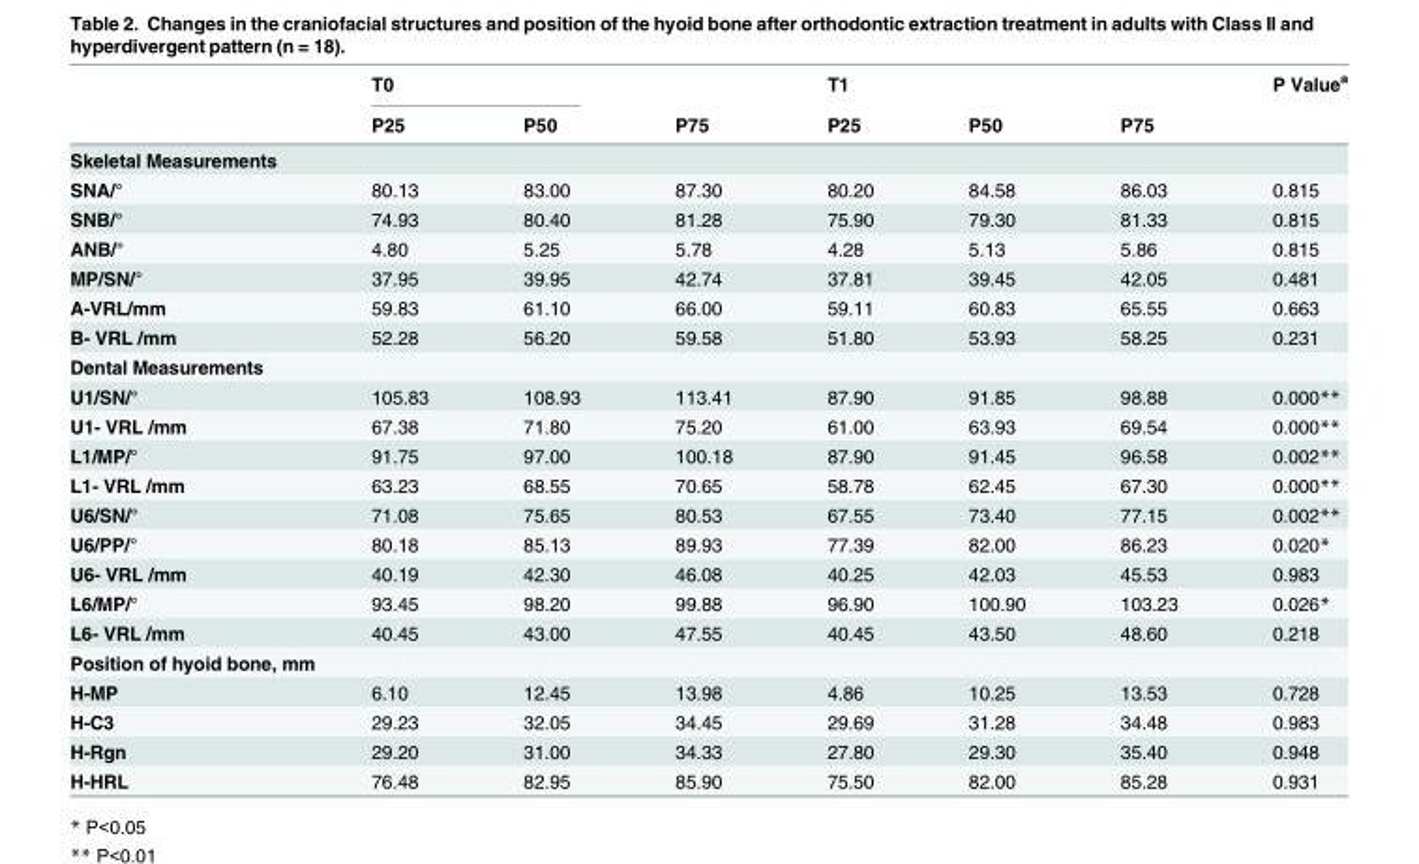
<table><thead><tr><td rowspan="2"></td><td colspan="2">T0</td><td rowspan="2">P75</td><td rowspan="2">T1 P25</td><td rowspan="2">P50</td><td rowspan="2">P75</td><td rowspan="2">P Value<sup>a</sup></td></tr><tr><td>P25</td><td>P50</td></tr></thead><tbody><tr><td colspan="8">Skeletal Measurements</td></tr><tr><td>SNA/°</td><td>80.13</td><td>83.00</td><td>87.30</td><td>80.20</td><td>84.58</td><td>86.03</td><td>0.815</td></tr><tr><td>SNB/°</td><td>74.93</td><td>80.40</td><td>81.28</td><td>75.90</td><td>79.30</td><td>81.33</td><td>0.815</td></tr><tr><td>ANB/°</td><td>4.80</td><td>5.25</td><td>5.78</td><td>4.28</td><td>5.13</td><td>5.86</td><td>0.815</td></tr><tr><td>MP/SN/°</td><td>37.95</td><td>39.95</td><td>42.74</td><td>37.81</td><td>39.45</td><td>42.05</td><td>0.481</td></tr><tr><td>A-VRL/mm</td><td>59.83</td><td>61.10</td><td>66.00</td><td>59.11</td><td>60.83</td><td>65.55</td><td>0.663</td></tr><tr><td>B- VRL /mm</td><td>52.28</td><td>56.20</td><td>59.58</td><td>51.80</td><td>53.93</td><td>58.25</td><td>0.231</td></tr><tr><td colspan="8">Dental Measurements</td></tr><tr><td>U1/SN/°</td><td>105.83</td><td>108.93</td><td>113.41</td><td>87.90</td><td>91.85</td><td>98.88</td><td>0.000**</td></tr><tr><td>U1- VRL /mm</td><td>67.38</td><td>71.80</td><td>75.20</td><td>61.00</td><td>63.93</td><td>69.54</td><td>0.000**</td></tr><tr><td>L1/MP/°</td><td>91.75</td><td>97.00</td><td>100.18</td><td>87.90</td><td>91.45</td><td>96.58</td><td>0.002**</td></tr><tr><td>L1- VRL /mm</td><td>63.23</td><td>68.55</td><td>70.65</td><td>58.78</td><td>62.45</td><td>67.30</td><td>0.000**</td></tr><tr><td>U6/SN/°</td><td>71.08</td><td>75.65</td><td>80.53</td><td>67.55</td><td>73.40</td><td>77.15</td><td>0.002**</td></tr><tr><td>U6/PP/°</td><td>80.18</td><td>85.13</td><td>89.93</td><td>77.39</td><td>82.00</td><td>86.23</td><td>0.020*</td></tr><tr><td>U6- VRL /mm</td><td>40.19</td><td>42.30</td><td>46.08</td><td>40.25</td><td>42.03</td><td>45.53</td><td>0.983</td></tr><tr><td>L6/MP/°</td><td>93.45</td><td>98.20</td><td>99.88</td><td>96.90</td><td>100.90</td><td>103.23</td><td>0.026*</td></tr><tr><td>L6- VRL /mm</td><td>40.45</td><td>43.00</td><td>47.55</td><td>40.45</td><td>43.50</td><td>48.60</td><td>0.218</td></tr><tr><td colspan="8">Position of hyoid bone, mm</td></tr><tr><td>H-MP</td><td>6.10</td><td>12.45</td><td>13.98</td><td>4.86</td><td>10.25</td><td>13.53</td><td>0.728</td></tr><tr><td>H-C3</td><td>29.23</td><td>32.05</td><td>34.45</td><td>29.69</td><td>31.28</td><td>34.48</td><td>0.983</td></tr><tr><td>H-Rgn</td><td>29.20</td><td>31.00</td><td>34.33</td><td>27.80</td><td>29.30</td><td>35.40</td><td>0.948</td></tr><tr><td>H-HRL</td><td>76.48</td><td>82.95</td><td>85.90</td><td>75.50</td><td>82.00</td><td>85.28</td><td>0.931</td></tr></tbody></table>